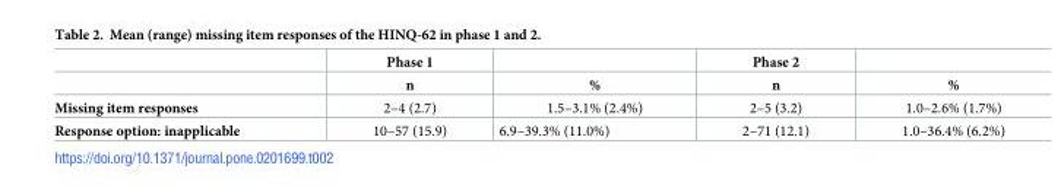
<table><thead><tr><td rowspan="2"></td><td rowspan="2">Phase 1 n</td><td rowspan="2">%</td><td rowspan="2">Phase 2 n</td><td rowspan="2">%</td></tr><tr></tr></thead><tbody><tr><td>Missing item responses</td><td>2–4 (2.7)</td><td>1.5–3.1% (2.4%)</td><td>2–5 (3.2)</td><td>1.0–2.6% (1.7%)</td></tr><tr><td>Response option: inapplicable</td><td>10–57 (15.9)</td><td>6.9–39.3% (11.0%)</td><td>2–71 (12.1)</td><td>1.0–36.4% (6.2%)</td></tr></tbody></table>